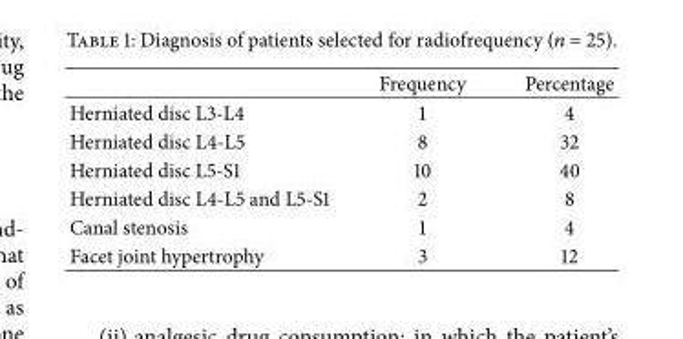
<table><thead><tr><td></td><td>Frequency</td><td>Percentage</td></tr></thead><tbody><tr><td>Herniated disc L3-L4</td><td>1</td><td>4</td></tr><tr><td>Herniated disc L4-L5</td><td>8</td><td>32</td></tr><tr><td>Herniated disc L5-S1</td><td>10</td><td>40</td></tr><tr><td>Herniated disc L4-L5 and L5-S1</td><td>2</td><td>8</td></tr><tr><td>Canal stenosis</td><td>1</td><td>4</td></tr><tr><td>Facet joint hypertrophy</td><td>3</td><td>12</td></tr></tbody></table>